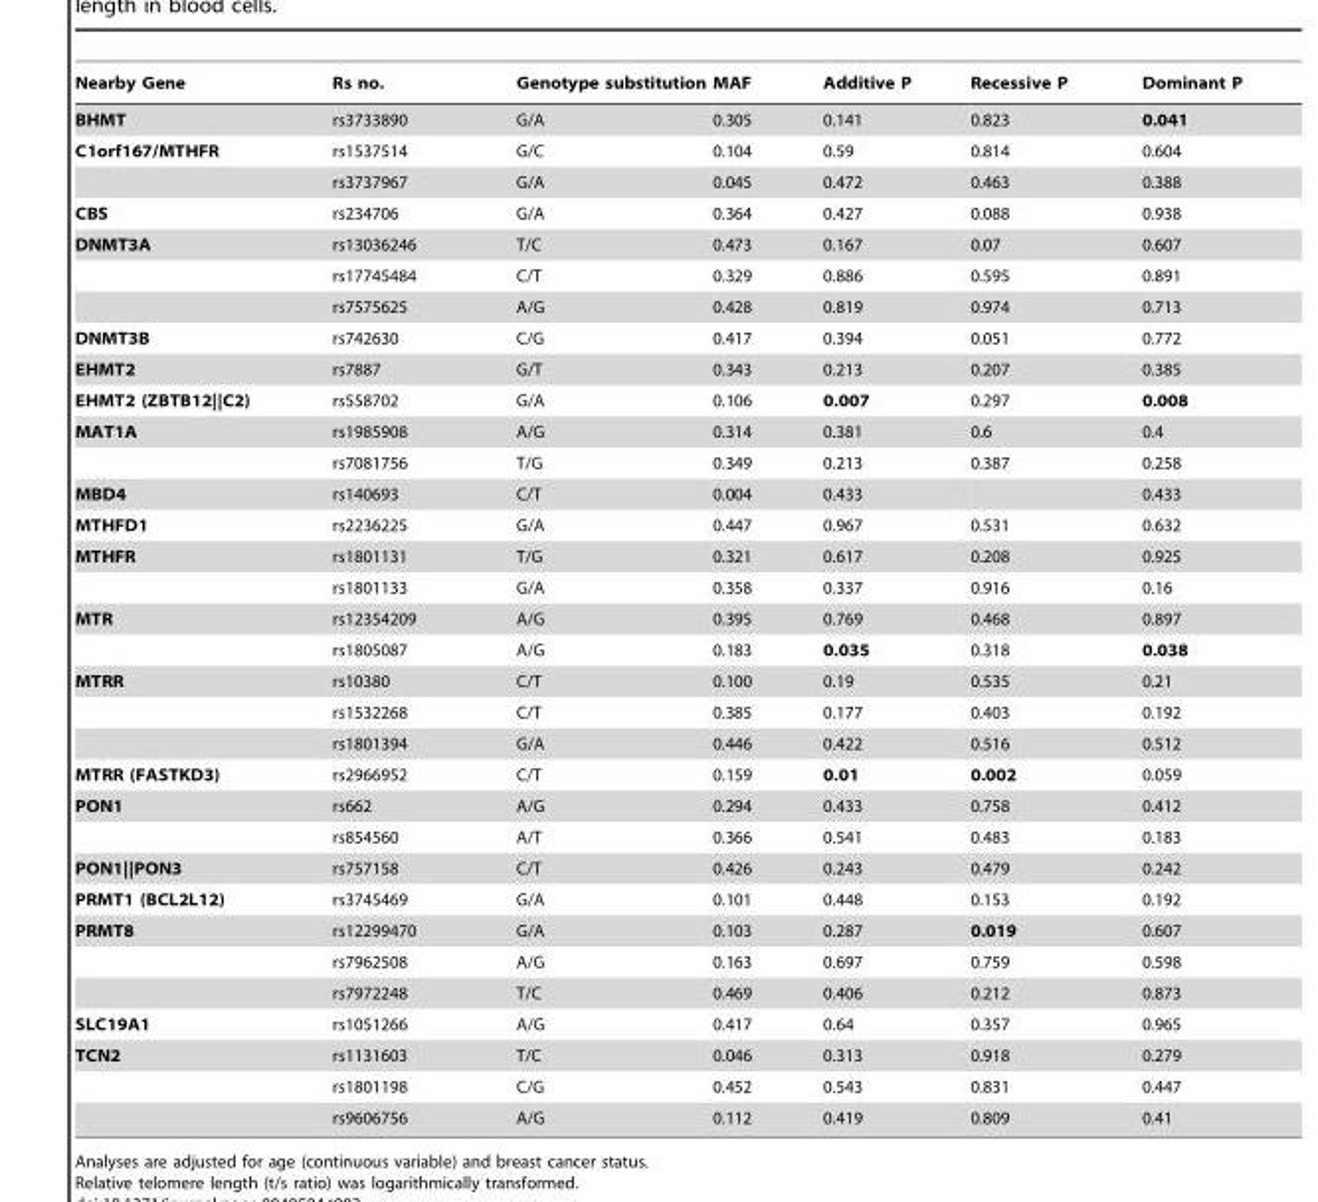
<table><thead><tr><td>Nearby Gene</td><td>Rs no.</td><td>Genotype substitution</td><td>MAF</td><td>Additive P</td><td>Recessive P</td><td>Dominant P</td></tr></thead><tbody><tr><td>BHMT</td><td>rs3733890</td><td>G/A</td><td>0.305</td><td>0.141</td><td>0.823</td><td>0.041</td></tr><tr><td rowspan="2">C1orf167/MTHFR</td><td>rs1537514</td><td>G/C</td><td>0.104</td><td>0.59</td><td>0.814</td><td>0.604</td></tr><tr><td>rs3737967</td><td>G/A</td><td>0.045</td><td>0.472</td><td>0.463</td><td>0.388</td></tr><tr><td>CBS</td><td>rs234706</td><td>G/A</td><td>0.364</td><td>0.427</td><td>0.088</td><td>0.938</td></tr><tr><td rowspan="3">DNMT3A</td><td>rs13036246</td><td>T/C</td><td>0.473</td><td>0.167</td><td>0.07</td><td>0.607</td></tr><tr><td>rs17745484</td><td>C/T</td><td>0.329</td><td>0.886</td><td>0.595</td><td>0.891</td></tr><tr><td>rs7575625</td><td>A/G</td><td>0.428</td><td>0.819</td><td>0.974</td><td>0.713</td></tr><tr><td>DNMT3B</td><td>rs742630</td><td>C/G</td><td>0.417</td><td>0.394</td><td>0.051</td><td>0.772</td></tr><tr><td>EHMT2</td><td>rs7887</td><td>G/T</td><td>0.343</td><td>0.213</td><td>0.207</td><td>0.385</td></tr><tr><td>EHMT2 (ZBTB12||C2)</td><td>rs558702</td><td>G/A</td><td>0.106</td><td>0.007</td><td>0.297</td><td>0.008</td></tr><tr><td rowspan="2">MAT1A</td><td>rs1985908</td><td>A/G</td><td>0.314</td><td>0.381</td><td>0.6</td><td>0.4</td></tr><tr><td>rs7081756</td><td>T/G</td><td>0.349</td><td>0.213</td><td>0.387</td><td>0.258</td></tr><tr><td>MBD4</td><td>rs140693</td><td>C/T</td><td>0.004</td><td>0.433</td><td></td><td>0.433</td></tr><tr><td>MTHFD1</td><td>rs2236225</td><td>G/A</td><td>0.447</td><td>0.967</td><td>0.531</td><td>0.632</td></tr><tr><td rowspan="2">MTHFR</td><td>rs1801131</td><td>T/G</td><td>0.321</td><td>0.617</td><td>0.208</td><td>0.925</td></tr><tr><td>rs1801133</td><td>G/A</td><td>0.358</td><td>0.337</td><td>0.916</td><td>0.16</td></tr><tr><td rowspan="2">MTR</td><td>rs12354209</td><td>A/G</td><td>0.395</td><td>0.769</td><td>0.468</td><td>0.897</td></tr><tr><td>rs1805087</td><td>A/G</td><td>0.183</td><td>0.035</td><td>0.318</td><td>0.038</td></tr><tr><td rowspan="3">MTRR</td><td>rs10380</td><td>C/T</td><td>0.100</td><td>0.19</td><td>0.535</td><td>0.21</td></tr><tr><td>rs1532268</td><td>C/T</td><td>0.385</td><td>0.177</td><td>0.403</td><td>0.192</td></tr><tr><td>rs1801394</td><td>G/A</td><td>0.446</td><td>0.422</td><td>0.516</td><td>0.512</td></tr><tr><td>MTRR (FASTKD3)</td><td>rs2966952</td><td>C/T</td><td>0.159</td><td>0.01</td><td>0.002</td><td>0.059</td></tr><tr><td rowspan="2">PON1</td><td>rs662</td><td>A/G</td><td>0.294</td><td>0.433</td><td>0.758</td><td>0.412</td></tr><tr><td>rs854560</td><td>A/T</td><td>0.366</td><td>0.541</td><td>0.483</td><td>0.183</td></tr><tr><td>PON1||PON3</td><td>rs757158</td><td>C/T</td><td>0.426</td><td>0.243</td><td>0.479</td><td>0.242</td></tr><tr><td>PRMT1 (BCL2L12)</td><td>rs3745469</td><td>G/A</td><td>0.101</td><td>0.448</td><td>0.153</td><td>0.192</td></tr><tr><td rowspan="3">PRMT8</td><td>rs12299470</td><td>G/A</td><td>0.103</td><td>0.287</td><td>0.019</td><td>0.607</td></tr><tr><td>rs7962508</td><td>A/G</td><td>0.163</td><td>0.697</td><td>0.759</td><td>0.598</td></tr><tr><td>rs7972248</td><td>T/C</td><td>0.469</td><td>0.406</td><td>0.212</td><td>0.873</td></tr><tr><td>SLC19A1</td><td>rs1051266</td><td>A/G</td><td>0.417</td><td>0.64</td><td>0.357</td><td>0.965</td></tr><tr><td rowspan="3">TCN2</td><td>rs1131603</td><td>T/C</td><td>0.046</td><td>0.313</td><td>0.918</td><td>0.279</td></tr><tr><td>rs1801198</td><td>C/G</td><td>0.452</td><td>0.543</td><td>0.831</td><td>0.447</td></tr><tr><td>rs9606756</td><td>A/G</td><td>0.112</td><td>0.419</td><td>0.809</td><td>0.41</td></tr></tbody></table>